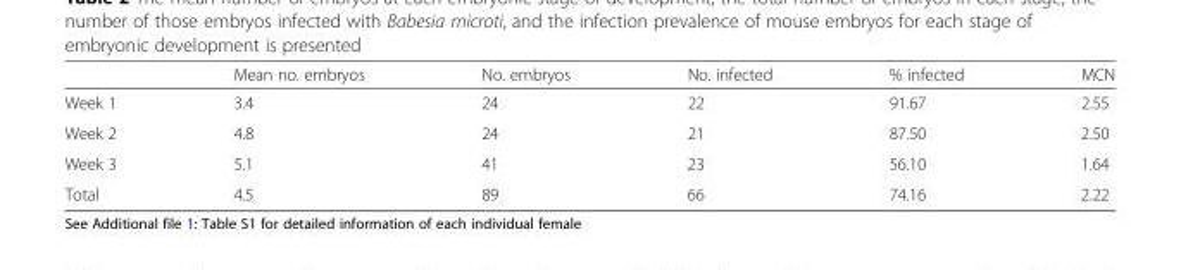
<table><thead><tr><td></td><td>Mean no. embryos</td><td>No. embryos</td><td>No. infected</td><td>% infected</td><td>MCN</td></tr></thead><tbody><tr><td>Week 1</td><td>3.4</td><td>24</td><td>22</td><td>91.67</td><td>2.55</td></tr><tr><td>Week 2</td><td>4.8</td><td>24</td><td>21</td><td>87.50</td><td>2.50</td></tr><tr><td>Week 3</td><td>5.1</td><td>41</td><td>23</td><td>56.10</td><td>1.64</td></tr><tr><td>Total</td><td>4.5</td><td>89</td><td>66</td><td>74.16</td><td>2.22</td></tr></tbody></table>